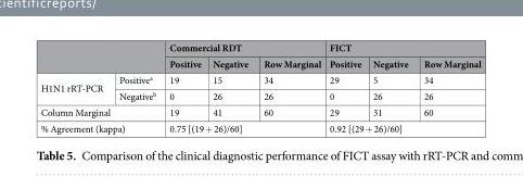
<table><thead><tr><td rowspan="2"></td><td rowspan="2"></td><td colspan="3">Commercial RDT</td><td colspan="3">FICT</td></tr><tr><td>Positive</td><td>Negative</td><td>Row Marginal</td><td>Positive</td><td>Negative</td><td>Row Marginal</td></tr></thead><tbody><tr><td rowspan="2">H1N1 rRT-PCR</td><td>Positive<sup>a</sup></td><td>19</td><td>15</td><td>34</td><td>29</td><td>5</td><td>34</td></tr><tr><td>Negative<sup>b</sup></td><td>0</td><td>26</td><td>26</td><td>0</td><td>26</td><td>26</td></tr><tr><td colspan="2">Column Marginal</td><td>19</td><td>41</td><td>60</td><td>29</td><td>31</td><td>60</td></tr><tr><td colspan="2">% Agreement (kappa)</td><td colspan="3">0.75 [(19 + 26)/60]</td><td colspan="3">0.92 [(29 + 26)/60]</td></tr></tbody></table>